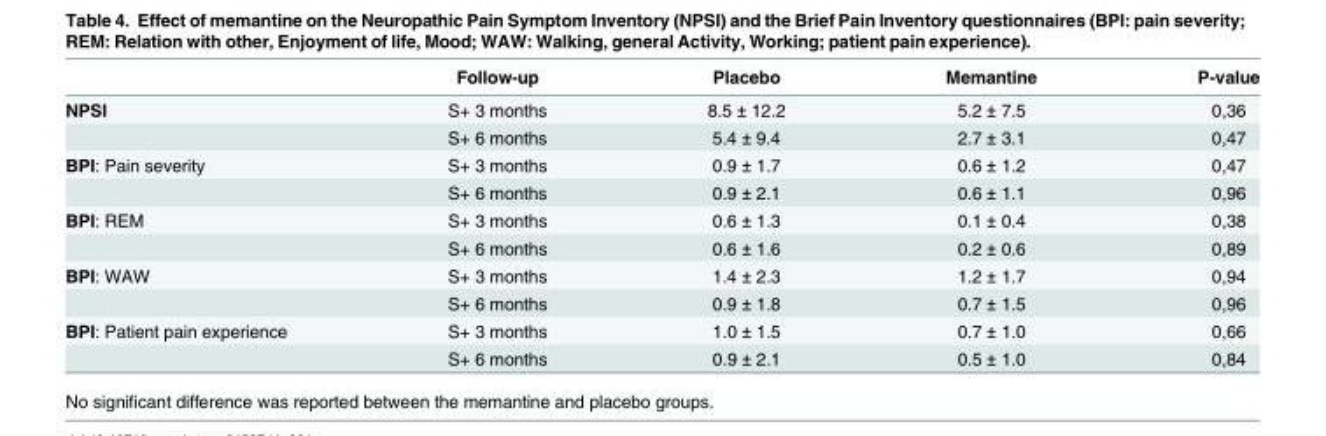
<table><thead><tr><td></td><td>Follow-up</td><td>Placebo</td><td>Memantine</td><td>P-value</td></tr></thead><tbody><tr><td rowspan="2">NPSI</td><td>S+ 3 months</td><td>8.5 ± 12.2</td><td>5.2 ± 7.5</td><td>0,36</td></tr><tr><td>S+ 6 months</td><td>5.4 ± 9.4</td><td>2.7 ± 3.1</td><td>0,47</td></tr><tr><td rowspan="2">BPI: Pain severity</td><td>S+ 3 months</td><td>0.9 ± 1.7</td><td>0.6 ± 1.2</td><td>0,47</td></tr><tr><td>S+ 6 months</td><td>0.9 ± 2.1</td><td>0.6 ± 1.1</td><td>0,96</td></tr><tr><td rowspan="2">BPI: REM</td><td>S+ 3 months</td><td>0.6 ± 1.3</td><td>0.1 ± 0.4</td><td>0,38</td></tr><tr><td>S+ 6 months</td><td>0.6 ± 1.6</td><td>0.2 ± 0.6</td><td>0,89</td></tr><tr><td rowspan="2">BPI: WAW</td><td>S+ 3 months</td><td>1.4 ± 2.3</td><td>1.2 ± 1.7</td><td>0,94</td></tr><tr><td>S+ 6 months</td><td>0.9 ± 1.8</td><td>0.7 ± 1.5</td><td>0,96</td></tr><tr><td rowspan="2">BPI: Patient pain experience</td><td>S+ 3 months</td><td>1.0 ± 1.5</td><td>0.7 ± 1.0</td><td>0,66</td></tr><tr><td>S+ 6 months</td><td>0.9 ± 2.1</td><td>0.5 ± 1.0</td><td>0,84</td></tr></tbody></table>